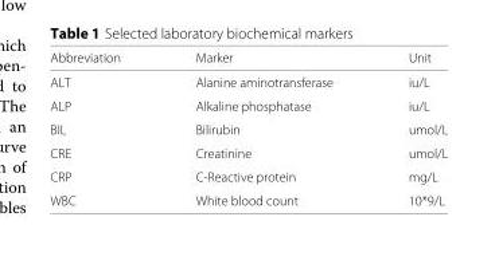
<table><thead><tr><td>Abbreviation</td><td>Marker</td><td>Unit</td></tr></thead><tbody><tr><td>ALT</td><td>Alanine aminotransferase</td><td>iu/L</td></tr><tr><td>ALP</td><td>Alkaline phosphatase</td><td>iu/L</td></tr><tr><td>BIL</td><td>Bilirubin</td><td>umol/L</td></tr><tr><td>CRE</td><td>Creatinine</td><td>umol/L</td></tr><tr><td>CRP</td><td>C-Reactive protein</td><td>mg/L</td></tr><tr><td>WBC</td><td>White blood count</td><td>10*9/L</td></tr></tbody></table>